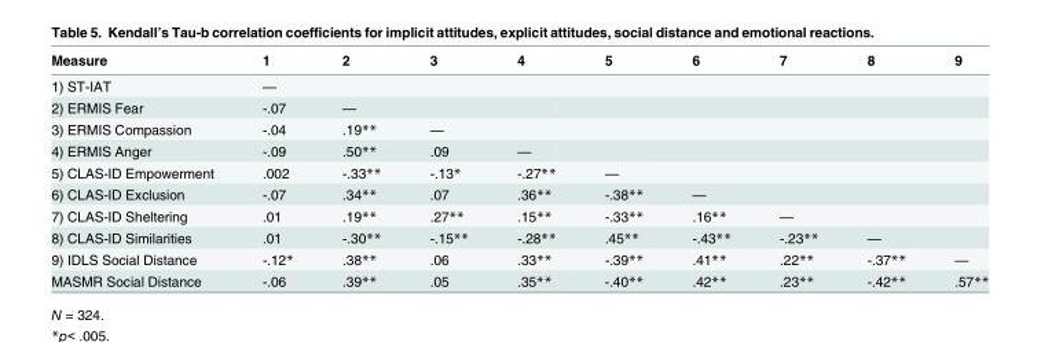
<table><thead><tr><td>Measure</td><td>1</td><td>2</td><td>3</td><td>4</td><td>5</td><td>6</td><td>7</td><td>8</td><td>9</td></tr></thead><tbody><tr><td>1) ST-IAT</td><td>—</td><td></td><td></td><td></td><td></td><td></td><td></td><td></td><td></td></tr><tr><td>2) ERMIS Fear</td><td>-.07</td><td>—</td><td></td><td></td><td></td><td></td><td></td><td></td><td></td></tr><tr><td>3) ERMIS Compassion</td><td>-.04</td><td>.19**</td><td>—</td><td></td><td></td><td></td><td></td><td></td><td></td></tr><tr><td>4) ERMIS Anger</td><td>-.09</td><td>.50**</td><td>.09</td><td>—</td><td></td><td></td><td></td><td></td><td></td></tr><tr><td>5) CLAS-ID Empowerment</td><td>.002</td><td>-.33**</td><td>-.13*</td><td>-.27**</td><td>—</td><td></td><td></td><td></td><td></td></tr><tr><td>6) CLAS-ID Exclusion</td><td>-.07</td><td>.34**</td><td>.07</td><td>.36**</td><td>-.38**</td><td>—</td><td></td><td></td><td></td></tr><tr><td>7) CLAS-ID Sheltering</td><td>.01</td><td>.19**</td><td>.27**</td><td>.15**</td><td>-.33**</td><td>.16**</td><td>—</td><td></td><td></td></tr><tr><td>8) CLAS-ID Similarities</td><td>.01</td><td>-.30**</td><td>-.15**</td><td>-.28**</td><td>.45**</td><td>-.43**</td><td>-.23**</td><td>—</td><td></td></tr><tr><td>9) IDLS Social Distance</td><td>-.12*</td><td>.38**</td><td>.06</td><td>.33**</td><td>-.39**</td><td>.41**</td><td>.22**</td><td>-.37**</td><td>—</td></tr><tr><td>MASMR Social Distance</td><td>-.06</td><td>.39**</td><td>.05</td><td>.35**</td><td>-.40**</td><td>.42**</td><td>.23**</td><td>-.42**</td><td>.57**</td></tr></tbody></table>